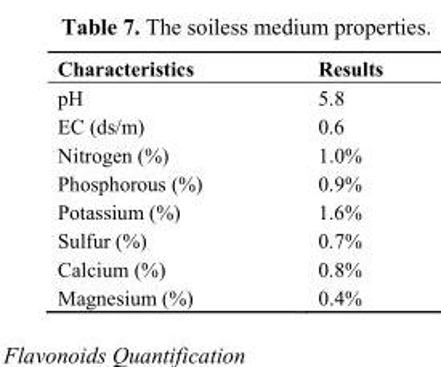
<table><thead><tr><td>Characteristics</td><td>Results</td></tr></thead><tbody><tr><td>pH</td><td>5.8</td></tr><tr><td>EC (ds/m)</td><td>0.6</td></tr><tr><td>Nitrogen (%)</td><td>1.0%</td></tr><tr><td>Phosphorous (%)</td><td>0.9%</td></tr><tr><td>Potassium (%)</td><td>1.6%</td></tr><tr><td>Sulfur (%)</td><td>0.7%</td></tr><tr><td>Calcium (%)</td><td>0.8%</td></tr><tr><td>Magnesium (%)</td><td>0.4%</td></tr></tbody></table>